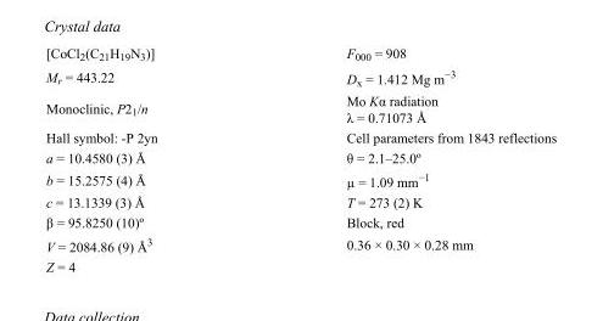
<table><tbody><tr><td>[CoCl<sub>2</sub>(C<sub>21</sub>H<sub>19</sub>N<sub>3</sub>)]</td><td>F<sub>000</sub> = 908</td></tr><tr><td>M<sub>r</sub> = 443.22</td><td>D<sub>x</sub> = 1.412 Mg m<sup>−3</sup></td></tr><tr><td>Monoclinic, P2<sub>1</sub>/n</td><td>Mo Kα radiation λ = 0.71073 Å</td></tr><tr><td>Hall symbol: -P 2yn</td><td>Cell parameters from 1843 reflections</td></tr><tr><td>a = 10.4580 (3) Å</td><td>θ = 2.1–25.0º</td></tr><tr><td>b = 15.2575 (4) Å</td><td>µ = 1.09 mm<sup>−1</sup></td></tr><tr><td>c = 13.1339 (3) Å</td><td>T = 273 (2) K</td></tr><tr><td>β = 95.8250 (10)º</td><td>Block, red</td></tr><tr><td>V = 2084.86 (9) Å<sup>3</sup></td><td>0.36 × 0.30 × 0.28 mm</td></tr><tr><td>Z = 4</td><td></td></tr></tbody></table>